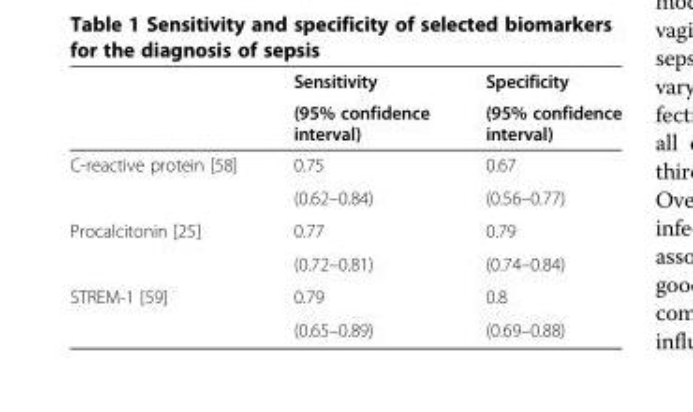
<table><thead><tr><td rowspan="2"></td><td rowspan="2">Sensitivity (95% confidence interval)</td><td rowspan="2">Specificity (95% confidence interval)</td></tr><tr></tr></thead><tbody><tr><td rowspan="2">C-reactive protein [58]</td><td>0.75</td><td>0.67</td></tr><tr><td>(0.62–0.84)</td><td>(0.56–0.77)</td></tr><tr><td rowspan="2">Procalcitonin [25]</td><td>0.77</td><td>0.79</td></tr><tr><td>(0.72–0.81)</td><td>(0.74–0.84)</td></tr><tr><td rowspan="2">STREM-1 [59]</td><td>0.79</td><td>0.8</td></tr><tr><td>(0.65–0.89)</td><td>(0.69–0.88)</td></tr></tbody></table>